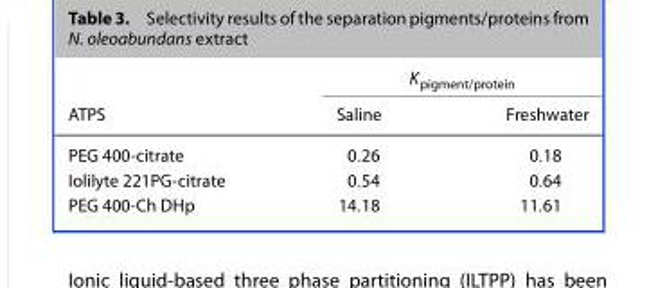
<table><thead><tr><td rowspan="2">ATPS</td><td colspan="2">K<sub>pigment/protein</sub></td></tr><tr><td>Saline</td><td>Freshwater</td></tr></thead><tbody><tr><td>PEG 400-citrate</td><td>0.26</td><td>0.18</td></tr><tr><td>Iolilyte 221PG-citrate</td><td>0.54</td><td>0.64</td></tr><tr><td>PEG 400-Ch DHp</td><td>14.18</td><td>11.61</td></tr></tbody></table>